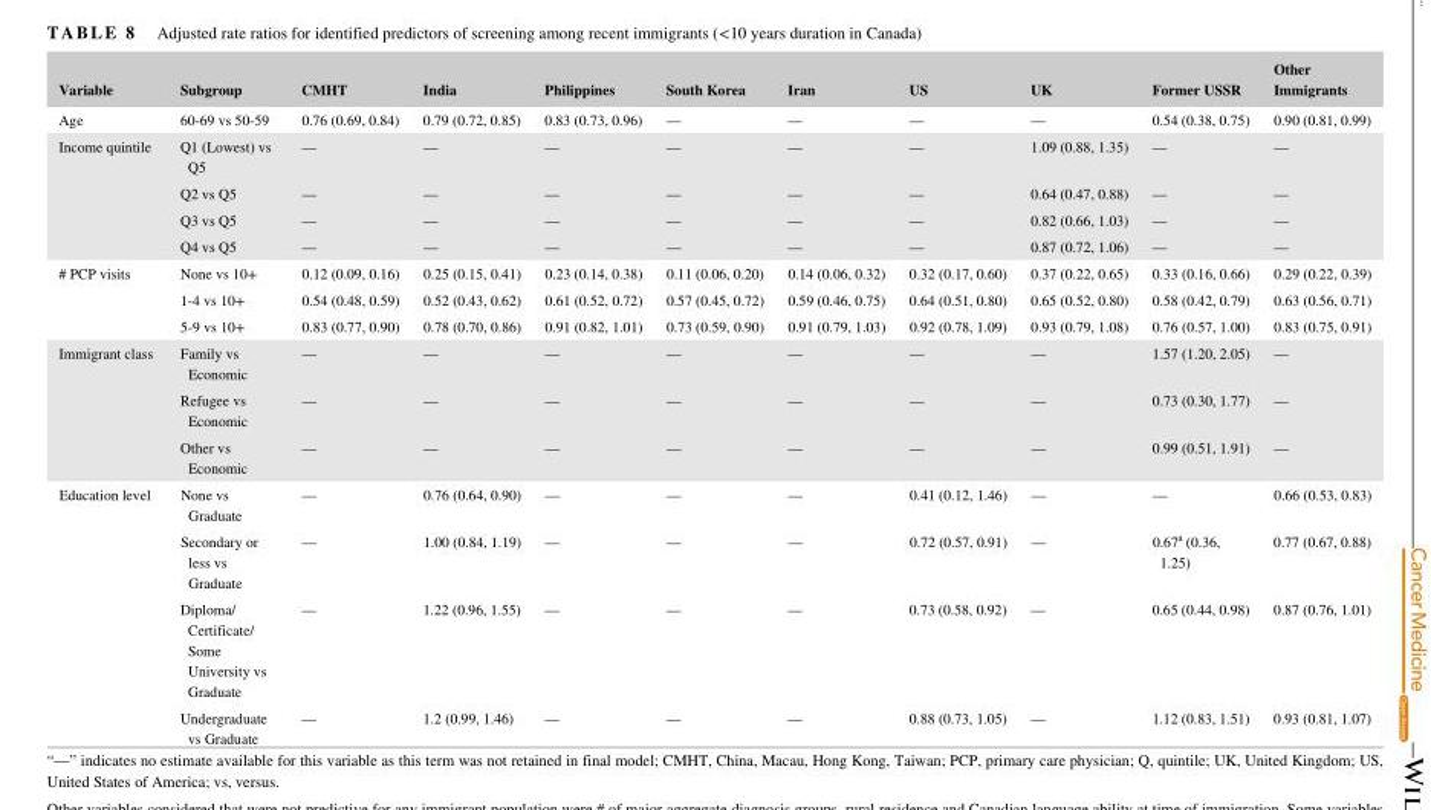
<table><thead><tr><td>Variable</td><td>Subgroup</td><td>CMHT</td><td>India</td><td>Philippines</td><td>South Korea</td><td>Iran</td><td>US</td><td>UK</td><td>Former USSR</td><td>Other Immigrants</td></tr></thead><tbody><tr><td>Age</td><td>60- 69 vs 50- 59</td><td>0.76 (0.69, 0.84)</td><td>0.79 (0.72, 0.85)</td><td>0.83 (0.73, 0.96)</td><td>—</td><td>—</td><td>—</td><td>—</td><td>0.54 (0.38, 0.75)</td><td>0.90 (0.81, 0.99)</td></tr><tr><td rowspan="4">Income quintile</td><td>Q1 (Lowest) vs Q5</td><td>—</td><td>—</td><td>—</td><td>—</td><td>—</td><td>—</td><td>1.09 (0.88, 1.35)</td><td>—</td><td>—</td></tr><tr><td>Q2 vs Q5</td><td>—</td><td>—</td><td>—</td><td>—</td><td>—</td><td>—</td><td>0.64 (0.47, 0.88)</td><td>—</td><td>—</td></tr><tr><td>Q3 vs Q5</td><td>—</td><td>—</td><td>—</td><td>—</td><td>—</td><td>—</td><td>0.82 (0.66, 1.03)</td><td>—</td><td>—</td></tr><tr><td>Q4 vs Q5</td><td>—</td><td>—</td><td>—</td><td>—</td><td>—</td><td>—</td><td>0.87 (0.72, 1.06)</td><td>—</td><td>—</td></tr><tr><td rowspan="3"># PCP visits</td><td>None vs 10+</td><td>0.12 (0.09, 0.16)</td><td>0.25 (0.15, 0.41)</td><td>0.23 (0.14, 0.38)</td><td>0.11 (0.06, 0.20)</td><td>0.14 (0.06, 0.32)</td><td>0.32 (0.17, 0.60)</td><td>0.37 (0.22, 0.65)</td><td>0.33 (0.16, 0.66)</td><td>0.29 (0.22, 0.39)</td></tr><tr><td>1- 4 vs 10+</td><td>0.54 (0.48, 0.59)</td><td>0.52 (0.43, 0.62)</td><td>0.61 (0.52, 0.72)</td><td>0.57 (0.45, 0.72)</td><td>0.59 (0.46, 0.75)</td><td>0.64 (0.51, 0.80)</td><td>0.65 (0.52, 0.80)</td><td>0.58 (0.42, 0.79)</td><td>0.63 (0.56, 0.71)</td></tr><tr><td>5- 9 vs 10+</td><td>0.83 (0.77, 0.90)</td><td>0.78 (0.70, 0.86)</td><td>0.91 (0.82, 1.01)</td><td>0.73 (0.59, 0.90)</td><td>0.91 (0.79, 1.03)</td><td>0.92 (0.78, 1.09)</td><td>0.93 (0.79, 1.08)</td><td>0.76 (0.57, 1.00)</td><td>0.83 (0.75, 0.91)</td></tr><tr><td rowspan="3">Immigrant class</td><td>Family vs Economic</td><td>—</td><td>—</td><td>—</td><td>—</td><td>—</td><td>—</td><td>—</td><td>1.57 (1.20, 2.05)</td><td>—</td></tr><tr><td>Refugee vs Economic</td><td>—</td><td>—</td><td>—</td><td>—</td><td>—</td><td>—</td><td>—</td><td>0.73 (0.30, 1.77)</td><td>—</td></tr><tr><td>Other vs Economic</td><td>—</td><td>—</td><td>—</td><td>—</td><td>—</td><td>—</td><td>—</td><td>0.99 (0.51, 1.91)</td><td>—</td></tr><tr><td rowspan="4">Education level</td><td>None vs Graduate</td><td>—</td><td>0.76 (0.64, 0.90)</td><td>—</td><td>—</td><td>—</td><td>0.41 (0.12, 1.46)</td><td>—</td><td>—</td><td>0.66 (0.53, 0.83)</td></tr><tr><td>Secondary or less vs Graduate</td><td>—</td><td>1.00 (0.84, 1.19)</td><td>—</td><td>—</td><td>—</td><td>0.72 (0.57, 0.91)</td><td>—</td><td>0.67<sup>a</sup> (0.36, 1.25)</td><td>0.77 (0.67, 0.88)</td></tr><tr><td>Diploma/ Certificate/ Some University vs Graduate</td><td>—</td><td>1.22 (0.96, 1.55)</td><td>—</td><td>—</td><td>—</td><td>0.73 (0.58, 0.92)</td><td>—</td><td>0.65 (0.44, 0.98)</td><td>0.87 (0.76, 1.01)</td></tr><tr><td>Undergraduate vs Graduate</td><td>—</td><td>1.2 (0.99, 1.46)</td><td>—</td><td>—</td><td>—</td><td>0.88 (0.73, 1.05)</td><td>—</td><td>1.12 (0.83, 1.51)</td><td>0.93 (0.81, 1.07)</td></tr></tbody></table>